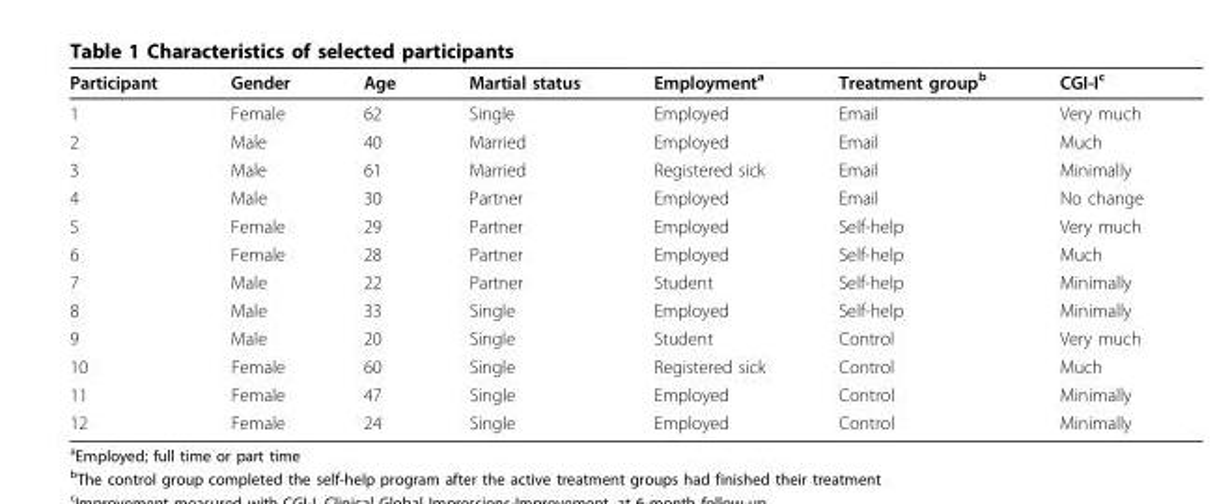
<table><thead><tr><td>Participant</td><td>Gender</td><td>Age</td><td>Martial status</td><td>Employment<sup>a</sup></td><td>Treatment group<sup>b</sup></td><td>CGI-I<sup>c</sup></td></tr></thead><tbody><tr><td>1</td><td>Female</td><td>62</td><td>Single</td><td>Employed</td><td>Email</td><td>Very much</td></tr><tr><td>2</td><td>Male</td><td>40</td><td>Married</td><td>Employed</td><td>Email</td><td>Much</td></tr><tr><td>3</td><td>Male</td><td>61</td><td>Married</td><td>Registered sick</td><td>Email</td><td>Minimally</td></tr><tr><td>4</td><td>Male</td><td>30</td><td>Partner</td><td>Employed</td><td>Email</td><td>No change</td></tr><tr><td>5</td><td>Female</td><td>29</td><td>Partner</td><td>Employed</td><td>Self-help</td><td>Very much</td></tr><tr><td>6</td><td>Female</td><td>28</td><td>Partner</td><td>Employed</td><td>Self-help</td><td>Much</td></tr><tr><td>7</td><td>Male</td><td>22</td><td>Partner</td><td>Student</td><td>Self-help</td><td>Minimally</td></tr><tr><td>8</td><td>Male</td><td>33</td><td>Single</td><td>Employed</td><td>Self-help</td><td>Minimally</td></tr><tr><td>9</td><td>Male</td><td>20</td><td>Single</td><td>Student</td><td>Control</td><td>Very much</td></tr><tr><td>10</td><td>Female</td><td>60</td><td>Single</td><td>Registered sick</td><td>Control</td><td>Much</td></tr><tr><td>11</td><td>Female</td><td>47</td><td>Single</td><td>Employed</td><td>Control</td><td>Minimally</td></tr><tr><td>12</td><td>Female</td><td>24</td><td>Single</td><td>Employed</td><td>Control</td><td>Minimally</td></tr></tbody></table>